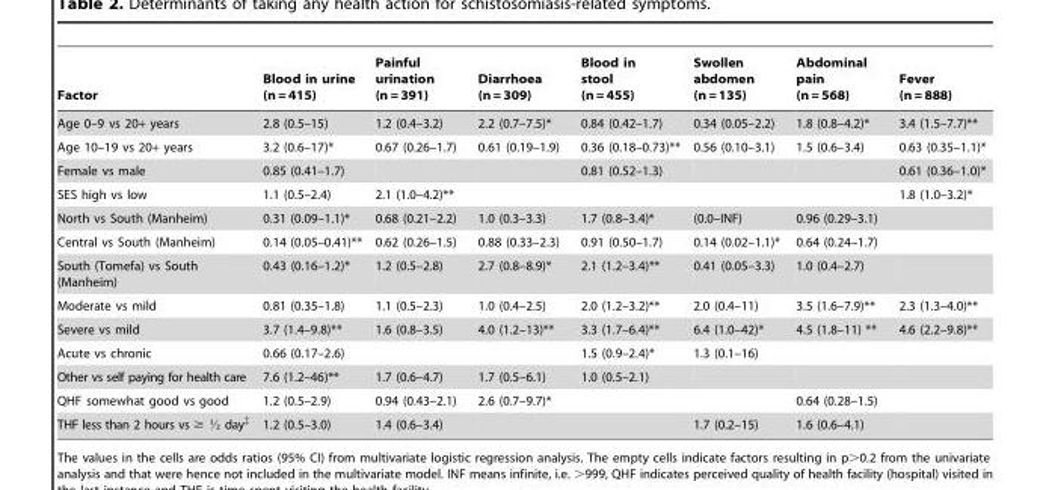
<table><thead><tr><td>Factor</td><td>Blood in urine (n = 415)</td><td>Painful urination (n = 391)</td><td>Diarrhoea (n = 309)</td><td>Blood in stool (n = 455)</td><td>Swollen abdomen (n = 135)</td><td>Abdominal pain (n = 568)</td><td>Fever (n = 888)</td></tr></thead><tbody><tr><td>Age 0–9 vs 20+ years</td><td>2.8 (0.5–15)</td><td>1.2 (0.4–3.2)</td><td>2.2 (0.7–7.5)*</td><td>0.84 (0.42–1.7)</td><td>0.34 (0.05–2.2)</td><td>1.8 (0.8–4.2)*</td><td>3.4 (1.5–7.7)**</td></tr><tr><td>Age 10–19 vs 20+ years</td><td>3.2 (0.6–17)*</td><td>0.67 (0.26–1.7)</td><td>0.61 (0.19–1.9)</td><td>0.36 (0.18–0.73)**</td><td>0.56 (0.10–3.1)</td><td>1.5 (0.6–3.4)</td><td>0.63 (0.35–1.1)*</td></tr><tr><td>Female vs male</td><td>0.85 (0.41–1.7)</td><td></td><td></td><td>0.81 (0.52–1.3)</td><td></td><td></td><td>0.61 (0.36–1.0)*</td></tr><tr><td>SES high vs low</td><td>1.1 (0.5–2.4)</td><td>2.1 (1.0–4.2)**</td><td></td><td></td><td></td><td></td><td>1.8 (1.0–3.2)*</td></tr><tr><td>North vs South (Manheim)</td><td>0.31 (0.09–1.1)*</td><td>0.68 (0.21–2.2)</td><td>1.0 (0.3–3.3)</td><td>1.7 (0.8–3.4)*</td><td>(0.0–INF)</td><td>0.96 (0.29–3.1)</td><td></td></tr><tr><td>Central vs South (Manheim)</td><td>0.14 (0.05–0.41)**</td><td>0.62 (0.26–1.5)</td><td>0.88 (0.33–2.3)</td><td>0.91 (0.50–1.7)</td><td>0.14 (0.02–1.1)*</td><td>0.64 (0.24–1.7)</td><td></td></tr><tr><td>South (Tomefa) vs South (Manheim)</td><td>0.43 (0.16–1.2)*</td><td>1.2 (0.5–2.8)</td><td>2.7 (0.8–8.9)*</td><td>2.1 (1.2–3.4)**</td><td>0.41 (0.05–3.3)</td><td>1.0 (0.4–2.7)</td><td></td></tr><tr><td>Moderate vs mild</td><td>0.81 (0.35–1.8)</td><td>1.1 (0.5–2.3)</td><td>1.0 (0.4–2.5)</td><td>2.0 (1.2–3.2)**</td><td>2.0 (0.4–11)</td><td>3.5 (1.6–7.9)**</td><td>2.3 (1.3–4.0)**</td></tr><tr><td>Severe vs mild</td><td>3.7 (1.4–9.8)**</td><td>1.6 (0.8–3.5)</td><td>4.0 (1.2–13)**</td><td>3.3 (1.7–6.4)**</td><td>6.4 (1.0–42)*</td><td>4.5 (1.8–11) **</td><td>4.6 (2.2–9.8)**</td></tr><tr><td>Acute vs chronic</td><td>0.66 (0.17–2.6)</td><td></td><td></td><td>1.5 (0.9–2.4)*</td><td>1.3 (0.1–16)</td><td></td><td></td></tr><tr><td>Other vs self paying for health care</td><td>7.6 (1.2–46)**</td><td>1.7 (0.6–4.7)</td><td>1.7 (0.5–6.1)</td><td>1.0 (0.5–2.1)</td><td></td><td></td><td></td></tr><tr><td>QHF somewhat good vs good</td><td>1.2 (0.5–2.9)</td><td>0.94 (0.43–2.1)</td><td>2.6 (0.7–9.7)*</td><td></td><td></td><td>0.64 (0.28–1.5)</td><td></td></tr><tr><td>THF less than 2 hours vs $ K day{</td><td>1.2 (0.5–3.0)</td><td>1.4 (0.6–3.4)</td><td></td><td></td><td>1.7 (0.2–15)</td><td>1.6 (0.6–4.1)</td><td></td></tr></tbody></table>